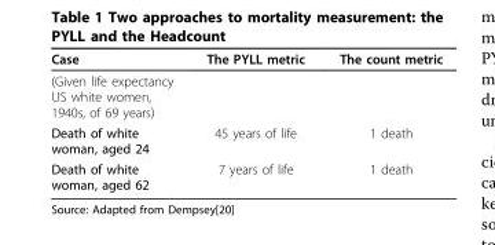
<table><thead><tr><td>Case</td><td>The PYLL metric</td><td>The count metric</td></tr></thead><tbody><tr><td colspan="3">(Given life expectancy US white women, 1940s, of 69 years)</td></tr><tr><td>Death of white woman, aged 24</td><td>45 years of life</td><td>1 death</td></tr><tr><td>Death of white woman, aged 62</td><td>7 years of life</td><td>1 death</td></tr></tbody></table>